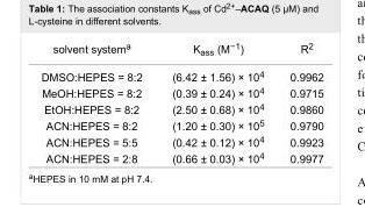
<table><tbody><tr><td>solvent system<sup>a</sup></td><td>K<sub>ass</sub> (M<sup>−1</sup>)</td><td>R<sup>2</sup></td></tr><tr><td>DMSO:HEPES = 8:2</td><td>(6.42 ± 1.56) × 10<sup>4</sup></td><td>0.9962</td></tr><tr><td>MeOH:HEPES = 8:2</td><td>(0.39 ± 0.24) × 10<sup>4</sup></td><td>0.9715</td></tr><tr><td>EtOH:HEPES = 8:2</td><td>(2.50 ± 0.68) × 10<sup>4</sup></td><td>0.9860</td></tr><tr><td>ACN:HEPES = 8:2</td><td>(1.20 ± 0.30) × 10<sup>5</sup></td><td>0.9790</td></tr><tr><td>ACN:HEPES = 5:5</td><td>(0.42 ± 0.12) × 10<sup>4</sup></td><td>0.9923</td></tr><tr><td>ACN:HEPES = 2:8</td><td>(0.66 ± 0.03) × 10<sup>4</sup></td><td>0.9977</td></tr></tbody></table>